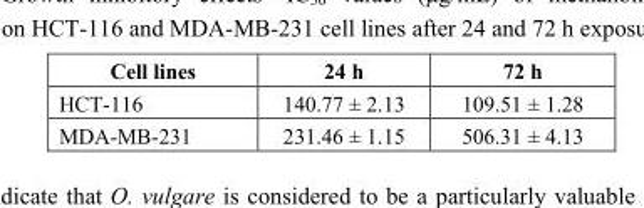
<table><thead><tr><td>Cell lines</td><td>24 h</td><td>72 h</td></tr></thead><tbody><tr><td>HCT-116</td><td>140.77 ± 2.13</td><td>109.51 ± 1.28</td></tr><tr><td>MDA-MB-231</td><td>231.46 ± 1.15</td><td>506.31 ± 4.13</td></tr></tbody></table>